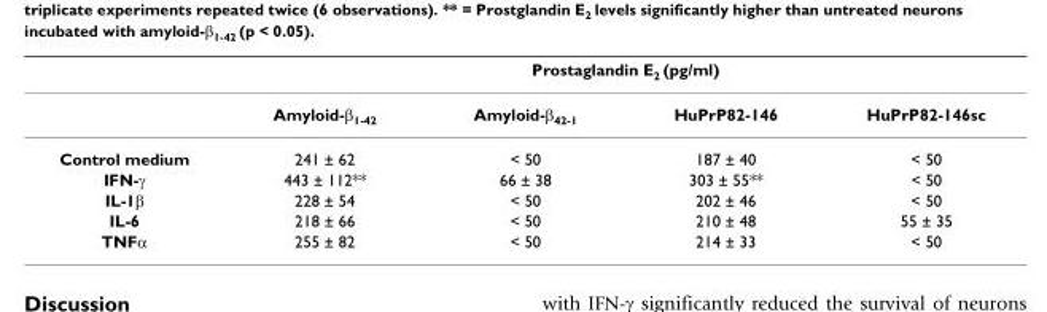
<table><thead><tr><td rowspan="2"></td><td colspan="4">Prostaglandin E<sub>2</sub> (pg/ml)</td></tr><tr><td>Amyloid-β<sub>1-42</sub></td><td>Amyloid-β<sub>42-1</sub></td><td>HuPrP82-146</td><td>HuPrP82-146sc</td></tr></thead><tbody><tr><td>Control medium</td><td>241 ± 62</td><td>&lt; 50</td><td>187 ± 40</td><td>&lt; 50</td></tr><tr><td>IFN-γ</td><td>443 ± 112**</td><td>66 ± 38</td><td>303 ± 55**</td><td>&lt; 50</td></tr><tr><td>IL-1β</td><td>228 ± 54</td><td>&lt; 50</td><td>202 ± 46</td><td>&lt; 50</td></tr><tr><td>IL-6</td><td>218 ± 66</td><td>&lt; 50</td><td>210 ± 48</td><td>55 ± 35</td></tr><tr><td>TNFα</td><td>255 ± 82</td><td>&lt; 50</td><td>214 ± 33</td><td>&lt; 50</td></tr></tbody></table>